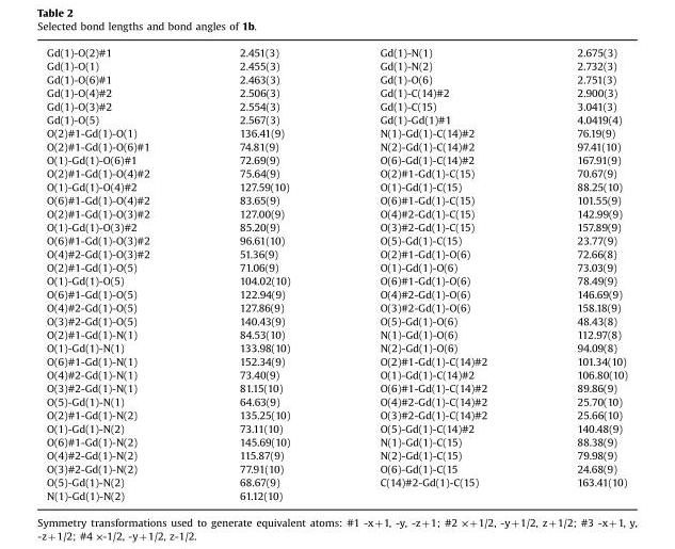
<table><tbody><tr><td>Gd(1)-O(2)#1</td><td>2.451(3)</td><td>Gd(1)-N(1)</td><td>2.675(3)</td></tr><tr><td>Gd(1)-O(1)</td><td>2.455(3)</td><td>Gd(1)-N(2)</td><td>2.732(3)</td></tr><tr><td>Gd(1)-O(6)#1</td><td>2.463(3)</td><td>Gd(1)-O(6)</td><td>2.751(3)</td></tr><tr><td>Gd(1)-O(4)#2</td><td>2.506(3)</td><td>Gd(1)-C(14)#2</td><td>2.900(3)</td></tr><tr><td>Gd(1)-O(3)#2</td><td>2.554(3)</td><td>Gd(1)-C(15)</td><td>3.041(3)</td></tr><tr><td>Gd(1)-O(5)</td><td>2.567(3)</td><td>Gd(1)-Gd(1)#1</td><td>4.0419(4)</td></tr><tr><td>O(2)#1-Gd(1)-O(1)</td><td>136.41(9)</td><td>N(1)-Gd(1)-C(14)#2</td><td>76.19(9)</td></tr><tr><td>O(2)#1-Gd(1)-O(6)#1</td><td>74.81(9)</td><td>N(2)-Gd(1)-C(14)#2</td><td>97.41(10)</td></tr><tr><td>O(1)-Gd(1)-O(6)#1</td><td>72.69(9)</td><td>O(6)-Gd(1)-C(14)#2</td><td>167.91(9)</td></tr><tr><td>O(2)#1-Gd(1)-O(4)#2</td><td>75.64(9)</td><td>O(2)#1-Gd(1)-C(15)</td><td>70.67(9)</td></tr><tr><td>O(1)-Gd(1)-O(4)#2</td><td>127.59(10)</td><td>O(1)-Gd(1)-C(15)</td><td>88.25(10)</td></tr><tr><td>O(6)#1-Gd(1)-O(4)#2</td><td>83.65(9)</td><td>O(6)#1-Gd(1)-C(15)</td><td>101.55(9)</td></tr><tr><td>O(2)#1-Gd(1)-O(3)#2</td><td>127.00(9)</td><td>O(4)#2-Gd(1)-C(15)</td><td>142.99(9)</td></tr><tr><td>O(1)-Gd(1)-O(3)#2</td><td>85.20(9)</td><td>O(3)#2-Gd(1)-C(15)</td><td>157.89(9)</td></tr><tr><td>O(6)#1-Gd(1)-O(3)#2</td><td>96.61(10)</td><td>O(5)-Gd(1)-C(15)</td><td>23.77(9)</td></tr><tr><td>O(4)#2-Gd(1)-O(3)#2</td><td>51.36(9)</td><td>O(2)#1-Gd(1)-O(6)</td><td>72.66(8)</td></tr><tr><td>O(2)#1-Gd(1)-O(5)</td><td>71.06(9)</td><td>O(1)-Gd(1)-O(6)</td><td>73.03(9)</td></tr><tr><td>O(1)-Gd(1)-O(5)</td><td>104.02(10)</td><td>O(6)#1-Gd(1)-O(6)</td><td>78.49(9)</td></tr><tr><td>O(6)#1-Gd(1)-O(5)</td><td>122.94(9)</td><td>O(4)#2-Gd(1)-O(6)</td><td>146.69(9)</td></tr><tr><td>O(4)#2-Gd(1)-O(5)</td><td>127.86(9)</td><td>O(3)#2-Gd(1)-O(6)</td><td>158.18(9)</td></tr><tr><td>O(3)#2-Gd(1)-O(5)</td><td>140.43(9)</td><td>O(5)-Gd(1)-O(6)</td><td>48.43(8)</td></tr><tr><td>O(2)#1-Gd(1)-N(1)</td><td>84.53(10)</td><td>N(1)-Gd(1)-O(6)</td><td>112.97(8)</td></tr><tr><td>O(1)-Gd(1)-N(1)</td><td>133.98(10)</td><td>N(2)-Gd(1)-O(6)</td><td>94.09(8)</td></tr><tr><td>O(6)#1-Gd(1)-N(1)</td><td>152.34(9)</td><td>O(2)#1-Gd(1)-C(14)#2</td><td>101.34(10)</td></tr><tr><td>O(4)#2-Gd(1)-N(1)</td><td>73.40(9)</td><td>O(1)-Gd(1)-C(14)#2</td><td>106.80(10)</td></tr><tr><td>O(3)#2-Gd(1)-N(1)</td><td>81.15(10)</td><td>O(6)#1-Gd(1)-C(14)#2</td><td>89.86(9)</td></tr><tr><td>O(5)-Gd(1)-N(1)</td><td>64.63(9)</td><td>O(4)#2-Gd(1)-C(14)#2</td><td>25.70(10)</td></tr><tr><td>O(2)#1-Gd(1)-N(2)</td><td>135.25(10)</td><td>O(3)#2-Gd(1)-C(14)#2</td><td>25.66(10)</td></tr><tr><td>O(1)-Gd(1)-N(2)</td><td>73.11(10)</td><td>O(5)-Gd(1)-C(14)#2</td><td>140.48(9)</td></tr><tr><td>O(6)#1-Gd(1)-N(2)</td><td>145.69(10)</td><td>N(1)-Gd(1)-C(15)</td><td>88.38(9)</td></tr><tr><td>O(4)#2-Gd(1)-N(2)</td><td>115.87(9)</td><td>N(2)-Gd(1)-C(15)</td><td>79.98(9)</td></tr><tr><td>O(3)#2-Gd(1)-N(2)</td><td>77.91(10)</td><td>O(6)-Gd(1)-C(15</td><td>24.68(9)</td></tr><tr><td>O(5)-Gd(1)-N(2)</td><td>68.67(9)</td><td>C(14)#2-Gd(1)-C(15)</td><td>163.41(10)</td></tr><tr><td>N(1)-Gd(1)-N(2)</td><td>61.12(10)</td><td></td><td></td></tr></tbody></table>